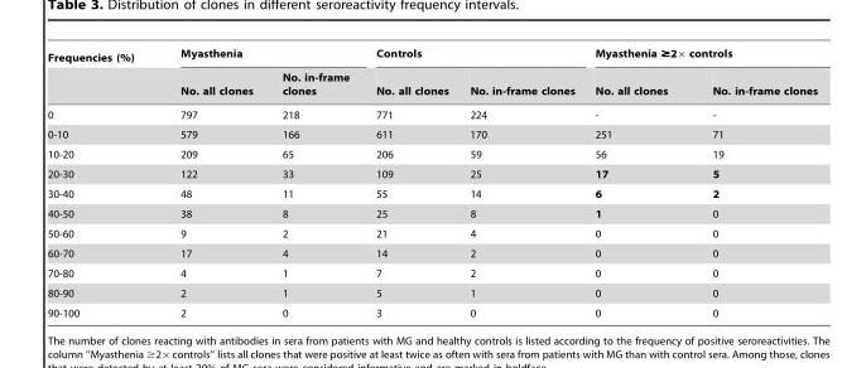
<table><thead><tr><td rowspan="2">Frequencies (%)</td><td colspan="2">Myasthenia</td><td colspan="2">Controls</td><td colspan="2">Myasthenia ≥2× controls</td></tr><tr><td>No. all clones</td><td>No. in-frame clones</td><td>No. all clones</td><td>No. in-frame clones</td><td>No. all clones</td><td>No. in-frame clones</td></tr></thead><tbody><tr><td>0</td><td>797</td><td>218</td><td>771</td><td>224</td><td>-</td><td>-</td></tr><tr><td>0-10</td><td>579</td><td>166</td><td>611</td><td>170</td><td>251</td><td>71</td></tr><tr><td>10-20</td><td>209</td><td>65</td><td>206</td><td>59</td><td>56</td><td>19</td></tr><tr><td>20-30</td><td>122</td><td>33</td><td>109</td><td>25</td><td>17</td><td>5</td></tr><tr><td>30-40</td><td>48</td><td>11</td><td>55</td><td>14</td><td>6</td><td>2</td></tr><tr><td>40-50</td><td>38</td><td>8</td><td>25</td><td>8</td><td>1</td><td>0</td></tr><tr><td>50-60</td><td>9</td><td>2</td><td>21</td><td>4</td><td>0</td><td>0</td></tr><tr><td>60-70</td><td>17</td><td>4</td><td>14</td><td>2</td><td>0</td><td>0</td></tr><tr><td>70-80</td><td>4</td><td>1</td><td>7</td><td>2</td><td>0</td><td>0</td></tr><tr><td>80-90</td><td>2</td><td>1</td><td>5</td><td>1</td><td>0</td><td>0</td></tr><tr><td>90-100</td><td>2</td><td>0</td><td>3</td><td>0</td><td>0</td><td>0</td></tr></tbody></table>